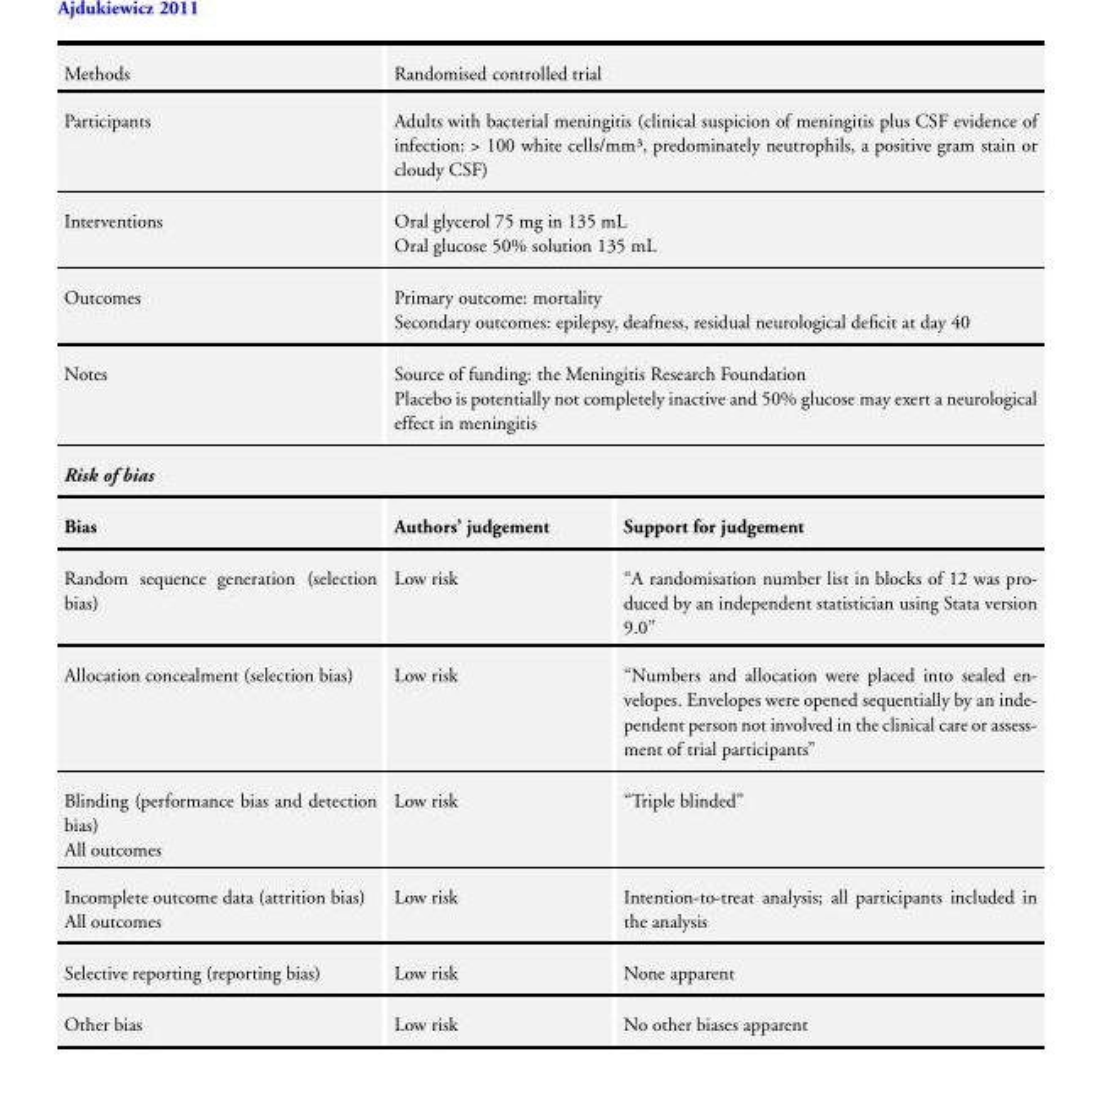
<table><tbody><tr><td>Methods</td><td colspan="2">Randomised controlled trial</td></tr><tr><td>Participants</td><td colspan="2">Adults with bacterial meningitis (clinical suspicion of meningitis plus CSF evidence of infection: &gt; 100 white cells/mm³, predominately neutrophils, a positive gram stain or cloudy CSF)</td></tr><tr><td>Interventions</td><td colspan="2">Oral glycerol 75 mg in 135 mL Oral glucose 50% solution 135 mL</td></tr><tr><td>Outcomes</td><td colspan="2">Primary outcome: mortality Secondary outcomes: epilepsy, deafness, residual neurological deficit at day 40</td></tr><tr><td>Notes</td><td colspan="2">Source of funding: the Meningitis Research Foundation Placebo is potentially not completely inactive and 50% glucose may exert a neurological effect in meningitis</td></tr><tr><td colspan="3">Risk of bias</td></tr><tr><td>Bias</td><td>Authors’ judgement</td><td>Support for judgement</td></tr><tr><td>Random sequence generation (selection bias)</td><td>Low risk</td><td>“A randomisation number list in blocks of 12 was pro- duced by an independent statistician using Stata version 9.0”</td></tr><tr><td>Allocation concealment (selection bias)</td><td>Low risk</td><td>“Numbers and allocation were placed into sealed en- velopes. Envelopes were opened sequentially by an inde- pendent person not involved in the clinical care or assess- ment of trial participants”</td></tr><tr><td>Blinding (performance bias and detection bias) All outcomes</td><td>Low risk</td><td>“Triple blinded”</td></tr><tr><td>Incomplete outcome data (attrition bias) All outcomes</td><td>Low risk</td><td>Intention-to-treat analysis; all participants included in the analysis</td></tr><tr><td>Selective reporting (reporting bias)</td><td>Low risk</td><td>None apparent</td></tr><tr><td>Other bias</td><td>Low risk</td><td>No other biases apparent</td></tr></tbody></table>